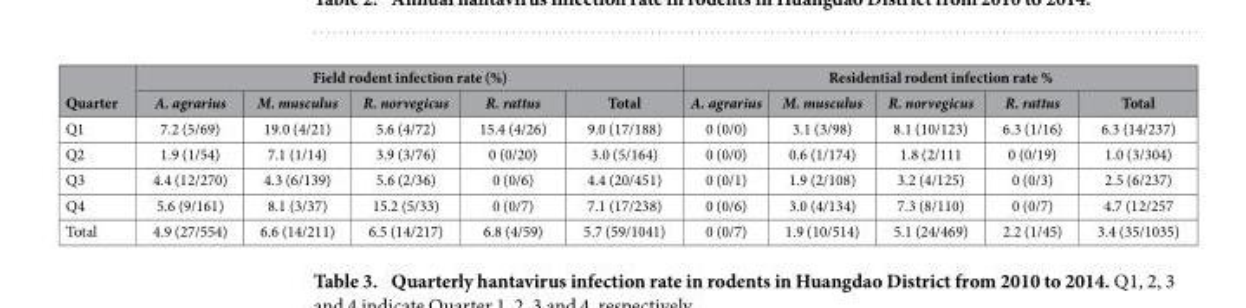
<table><thead><tr><td rowspan="2">Quarter</td><td colspan="5">Field rodent infection rate (%)</td><td colspan="5">Residential rodent infection rate %</td></tr><tr><td>A. agrarius</td><td>M. musculus</td><td>R. norvegicus</td><td>R. rattus</td><td>Total</td><td>A. agrarius</td><td>M. musculus</td><td>R. norvegicus</td><td>R. rattus</td><td>Total</td></tr></thead><tbody><tr><td>Q1</td><td>7.2 (5/69)</td><td>19.0 (4/21)</td><td>5.6 (4/72)</td><td>15.4 (4/26)</td><td>9.0 (17/188)</td><td>0 (0/0)</td><td>3.1 (3/98)</td><td>8.1 (10/123)</td><td>6.3 (1/16)</td><td>6.3 (14/237)</td></tr><tr><td>Q2</td><td>1.9 (1/54)</td><td>7.1 (1/14)</td><td>3.9 (3/76)</td><td>0 (0/20)</td><td>3.0 (5/164)</td><td>0 (0/0)</td><td>0.6 (1/174)</td><td>1.8 (2/111</td><td>0 (0/19)</td><td>1.0 (3/304)</td></tr><tr><td>Q3</td><td>4.4 (12/270)</td><td>4.3 (6/139)</td><td>5.6 (2/36)</td><td>0 (0/6)</td><td>4.4 (20/451)</td><td>0 (0/1)</td><td>1.9 (2/108)</td><td>3.2 (4/125)</td><td>0 (0/3)</td><td>2.5 (6/237)</td></tr><tr><td>Q4</td><td>5.6 (9/161)</td><td>8.1 (3/37)</td><td>15.2 (5/33)</td><td>0 (0/7)</td><td>7.1 (17/238)</td><td>0 (0/6)</td><td>3.0 (4/134)</td><td>7.3 (8/110)</td><td>0 (0/7)</td><td>4.7 (12/257</td></tr><tr><td>Total</td><td>4.9 (27/554)</td><td>6.6 (14/211)</td><td>6.5 (14/217)</td><td>6.8 (4/59)</td><td>5.7 (59/1041)</td><td>0 (0/7)</td><td>1.9 (10/514)</td><td>5.1 (24/469)</td><td>2.2 (1/45)</td><td>3.4 (35/1035)</td></tr></tbody></table>